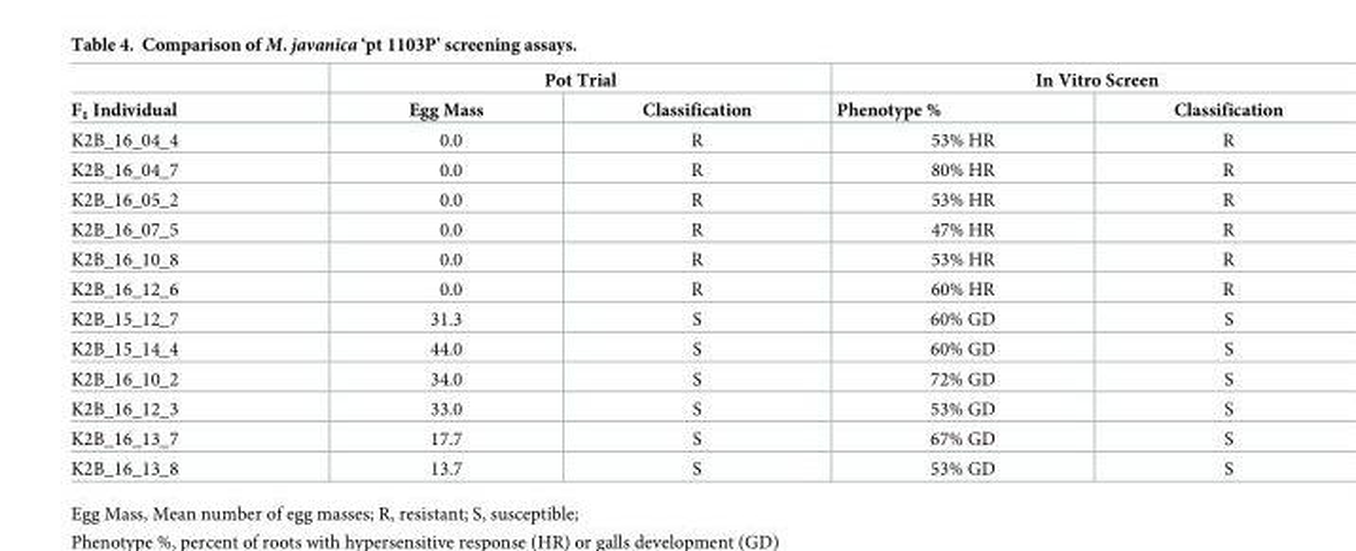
<table><thead><tr><td rowspan="2">F<sub>1</sub> Individual</td><td colspan="2">Pot Trial</td><td colspan="2">In Vitro Screen</td></tr><tr><td>Egg Mass</td><td>Classification</td><td>Phenotype %</td><td>Classification</td></tr></thead><tbody><tr><td>K2B_16_04_4</td><td>0.0</td><td>R</td><td>53% HR</td><td>R</td></tr><tr><td>K2B_16_04_7</td><td>0.0</td><td>R</td><td>80% HR</td><td>R</td></tr><tr><td>K2B_16_05_2</td><td>0.0</td><td>R</td><td>53% HR</td><td>R</td></tr><tr><td>K2B_16_07_5</td><td>0.0</td><td>R</td><td>47% HR</td><td>R</td></tr><tr><td>K2B_16_10_8</td><td>0.0</td><td>R</td><td>53% HR</td><td>R</td></tr><tr><td>K2B_16_12_6</td><td>0.0</td><td>R</td><td>60% HR</td><td>R</td></tr><tr><td>K2B_15_12_7</td><td>31.3</td><td>S</td><td>60% GD</td><td>S</td></tr><tr><td>K2B_15_14_4</td><td>44.0</td><td>S</td><td>60% GD</td><td>S</td></tr><tr><td>K2B_16_10_2</td><td>34.0</td><td>S</td><td>72% GD</td><td>S</td></tr><tr><td>K2B_16_12_3</td><td>33.0</td><td>S</td><td>53% GD</td><td>S</td></tr><tr><td>K2B_16_13_7</td><td>17.7</td><td>S</td><td>67% GD</td><td>S</td></tr><tr><td>K2B_16_13_8</td><td>13.7</td><td>S</td><td>53% GD</td><td>S</td></tr></tbody></table>